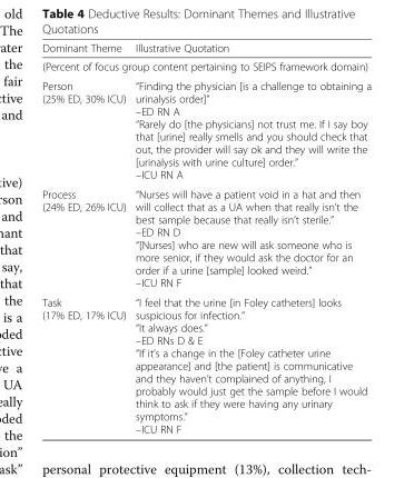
<table><thead><tr><td>Dominant Theme</td><td>Illustrative Quotation</td></tr></thead><tbody><tr><td colspan="2">(Percent of focus group content pertaining to SEIPS framework domain)</td></tr><tr><td>Person (25% ED, 30% ICU)</td><td>“Finding the physician [is a challenge to obtaining a urinalysis order]” –ED RN A “Rarely do [the physicians] not trust me. If I say boy that [urine] really smells and you should check that out, the provider will say ok and they will write the [urinalysis with urine culture] order.” –ICU RN A</td></tr><tr><td>Process (24% ED, 26% ICU)</td><td>“Nurses will have a patient void in a hat and then will collect that as a UA when that really isn’t the best sample because that really isn’t sterile.” –ED RN D “[Nurses] who are new will ask someone who is more senior, if they would ask the doctor for an order if a urine [sample] looked weird.” –ICU RN F</td></tr><tr><td>Task (17% ED, 17% ICU)</td><td>“I feel that the urine [in Foley catheters] looks suspicious for infection.” “It always does.” –ED RNs D &amp; E “If it’s a change in the [Foley catheter urine appearance] and [the patient] is communicative and they haven’t complained of anything, I probably would just get the sample before I would think to ask if they were having any urinary symptoms.” –ICU RN F</td></tr></tbody></table>